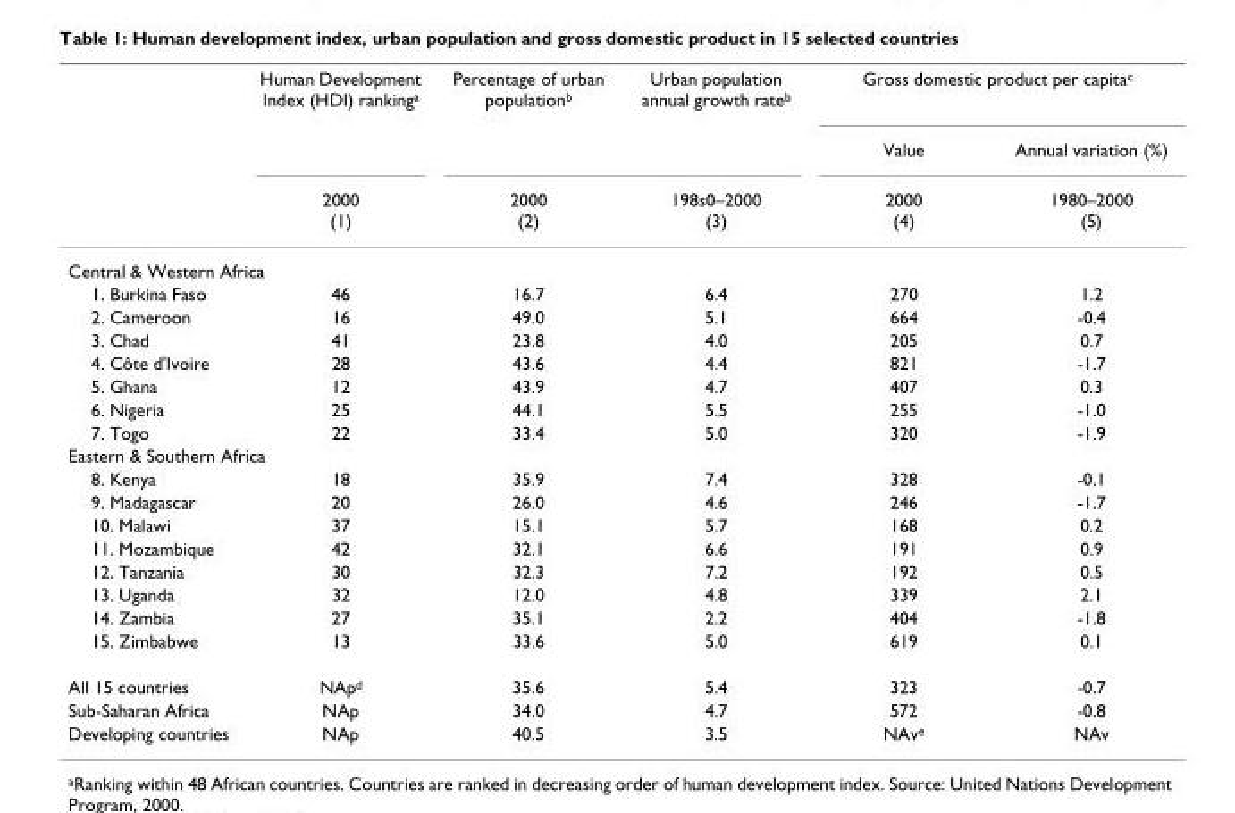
<table><thead><tr><td rowspan="3"></td><td rowspan="3">Human Development Index (HDI) ranking<sup>a</sup> 2000 (1)</td><td rowspan="3">Percentage of urban population<sup>b</sup> 2000 (2)</td><td rowspan="3">Urban population annual growth rate<sup>b</sup> 198s0–2000 (3)</td><td colspan="2">Gross domestic product per capita<sup>c</sup></td></tr><tr><td rowspan="2">Value 2000 (4)</td><td rowspan="2">Annual variation (%) 1980–2000 (5)</td></tr><tr></tr></thead><tbody><tr><td colspan="6">Central &amp; Western Africa</td></tr><tr><td>1. Burkina Faso</td><td>46</td><td>16.7</td><td>6.4</td><td>270</td><td>1.2</td></tr><tr><td>2. Cameroon</td><td>16</td><td>49.0</td><td>5.1</td><td>664</td><td>-0.4</td></tr><tr><td>3. Chad</td><td>41</td><td>23.8</td><td>4.0</td><td>205</td><td>0.7</td></tr><tr><td>4. Côte d&#x27;Ivoire</td><td>28</td><td>43.6</td><td>4.4</td><td>821</td><td>-1.7</td></tr><tr><td>5. Ghana</td><td>12</td><td>43.9</td><td>4.7</td><td>407</td><td>0.3</td></tr><tr><td>6. Nigeria</td><td>25</td><td>44.1</td><td>5.5</td><td>255</td><td>-1.0</td></tr><tr><td>7. Togo</td><td>22</td><td>33.4</td><td>5.0</td><td>320</td><td>-1.9</td></tr><tr><td colspan="6">Eastern &amp; Southern Africa</td></tr><tr><td>8. Kenya</td><td>18</td><td>35.9</td><td>7.4</td><td>328</td><td>-0.1</td></tr><tr><td>9. Madagascar</td><td>20</td><td>26.0</td><td>4.6</td><td>246</td><td>-1.7</td></tr><tr><td>10. Malawi</td><td>37</td><td>15.1</td><td>5.7</td><td>168</td><td>0.2</td></tr><tr><td>11. Mozambique</td><td>42</td><td>32.1</td><td>6.6</td><td>191</td><td>0.9</td></tr><tr><td>12. Tanzania</td><td>30</td><td>32.3</td><td>7.2</td><td>192</td><td>0.5</td></tr><tr><td>13. Uganda</td><td>32</td><td>12.0</td><td>4.8</td><td>339</td><td>2.1</td></tr><tr><td>14. Zambia</td><td>27</td><td>35.1</td><td>2.2</td><td>404</td><td>-1.8</td></tr><tr><td>15. Zimbabwe</td><td>13</td><td>33.6</td><td>5.0</td><td>619</td><td>0.1</td></tr><tr><td>All 15 countries</td><td>NAp<sup>d</sup></td><td>35.6</td><td>5.4</td><td>323</td><td>-0.7</td></tr><tr><td>Sub-Saharan Africa</td><td>NAp</td><td>34.0</td><td>4.7</td><td>572</td><td>-0.8</td></tr><tr><td>Developing countries</td><td>NAp</td><td>40.5</td><td>3.5</td><td>NAv<sup>e</sup></td><td>NAv</td></tr></tbody></table>